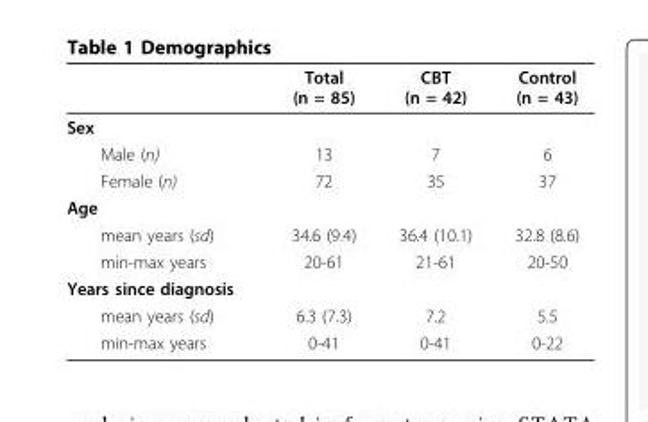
<table><thead><tr><td></td><td>Total (n = 85)</td><td>CBT (n = 42)</td><td>Control (n = 43)</td></tr></thead><tbody><tr><td colspan="4">Sex</td></tr><tr><td>Male (n)</td><td>13</td><td>7</td><td>6</td></tr><tr><td>Female (n)</td><td>72</td><td>35</td><td>37</td></tr><tr><td colspan="4">Age</td></tr><tr><td>mean years (sd)</td><td>34.6 (9.4)</td><td>36.4 (10.1)</td><td>32.8 (8.6)</td></tr><tr><td>min-max years</td><td>20-61</td><td>21-61</td><td>20-50</td></tr><tr><td colspan="4">Years since diagnosis</td></tr><tr><td>mean years (sd)</td><td>6.3 (7.3)</td><td>7.2</td><td>5.5</td></tr><tr><td>min-max years</td><td>0-41</td><td>0-41</td><td>0-22</td></tr></tbody></table>